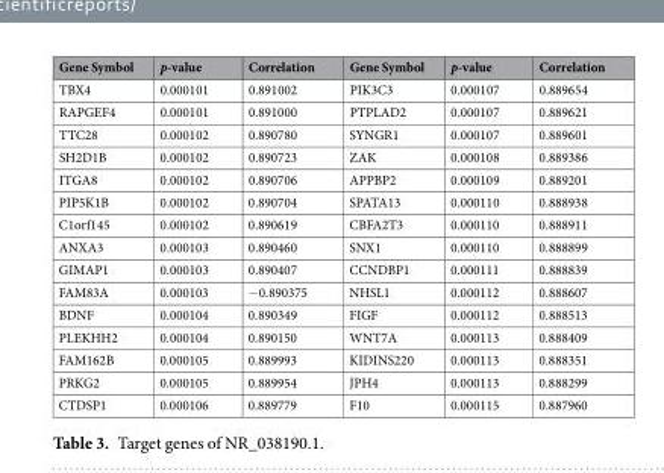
<table><thead><tr><td>Gene Symbol</td><td>p-value</td><td>Correlation</td><td>Gene Symbol</td><td>p-value</td><td>Correlation</td></tr></thead><tbody><tr><td>TBX4</td><td>0.000101</td><td>0.891002</td><td>PIK3C3</td><td>0.000107</td><td>0.889654</td></tr><tr><td>RAPGEF4</td><td>0.000101</td><td>0.891000</td><td>PTPLAD2</td><td>0.000107</td><td>0.889621</td></tr><tr><td>TTC28</td><td>0.000102</td><td>0.890780</td><td>SYNGR1</td><td>0.000107</td><td>0.889601</td></tr><tr><td>SH2D1B</td><td>0.000102</td><td>0.890723</td><td>ZAK</td><td>0.000108</td><td>0.889386</td></tr><tr><td>ITGA8</td><td>0.000102</td><td>0.890706</td><td>APPBP2</td><td>0.000109</td><td>0.889201</td></tr><tr><td>PIP5K1B</td><td>0.000102</td><td>0.890704</td><td>SPATA13</td><td>0.000110</td><td>0.888938</td></tr><tr><td>C1orf145</td><td>0.000102</td><td>0.890619</td><td>CBFA2T3</td><td>0.000110</td><td>0.888911</td></tr><tr><td>ANXA3</td><td>0.000103</td><td>0.890460</td><td>SNX1</td><td>0.000110</td><td>0.888899</td></tr><tr><td>GIMAP1</td><td>0.000103</td><td>0.890407</td><td>CCNDBP1</td><td>0.000111</td><td>0.888839</td></tr><tr><td>FAM83A</td><td>0.000103</td><td>−0.890375</td><td>NHSL1</td><td>0.000112</td><td>0.888607</td></tr><tr><td>BDNF</td><td>0.000104</td><td>0.890349</td><td>FIGF</td><td>0.000112</td><td>0.888513</td></tr><tr><td>PLEKHH2</td><td>0.000104</td><td>0.890150</td><td>WNT7A</td><td>0.000113</td><td>0.888409</td></tr><tr><td>FAM162B</td><td>0.000105</td><td>0.889993</td><td>KIDINS220</td><td>0.000113</td><td>0.888351</td></tr><tr><td>PRKG2</td><td>0.000105</td><td>0.889954</td><td>JPH4</td><td>0.000113</td><td>0.888299</td></tr><tr><td>CTDSP1</td><td>0.000106</td><td>0.889779</td><td>F10</td><td>0.000115</td><td>0.887960</td></tr></tbody></table>